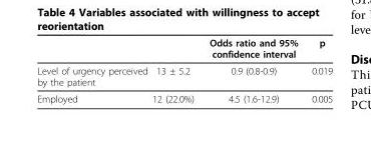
<table><thead><tr><td></td><td></td><td>Odds ratio and 95% confidence interval</td><td>p</td></tr></thead><tbody><tr><td>Level of urgency perceived by the patient</td><td>13 ± 5.2</td><td>0.9 (0.8-0.9)</td><td>0.019</td></tr><tr><td>Employed</td><td>12 (22.0%)</td><td>4.5 (1.6-12.9)</td><td>0.005</td></tr></tbody></table>